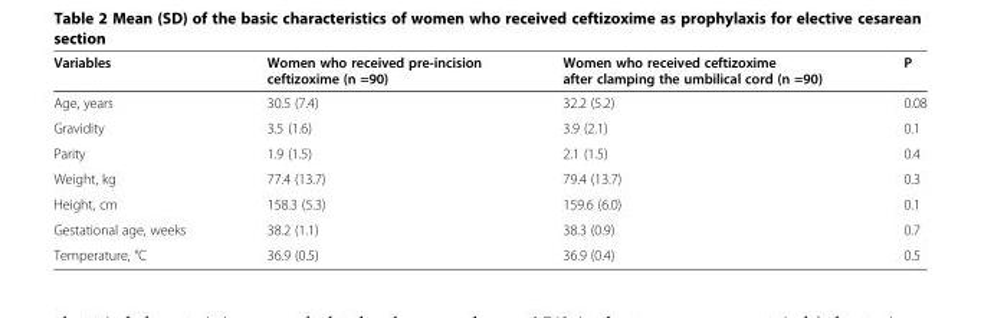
<table><thead><tr><td>Variables</td><td>Women who received pre-incision ceftizoxime (n =90)</td><td>Women who received ceftizoxime after clamping the umbilical cord (n =90)</td><td>P</td></tr></thead><tbody><tr><td>Age, years</td><td>30.5 (7.4)</td><td>32.2 (5.2)</td><td>0.08</td></tr><tr><td>Gravidity</td><td>3.5 (1.6)</td><td>3.9 (2.1)</td><td>0.1</td></tr><tr><td>Parity</td><td>1.9 (1.5)</td><td>2.1 (1.5)</td><td>0.4</td></tr><tr><td>Weight, kg</td><td>77.4 (13.7)</td><td>79.4 (13.7)</td><td>0.3</td></tr><tr><td>Height, cm</td><td>158.3 (5.3)</td><td>159.6 (6.0)</td><td>0.1</td></tr><tr><td>Gestational age, weeks</td><td>38.2 (1.1)</td><td>38.3 (0.9)</td><td>0.7</td></tr><tr><td>Temperature, °C</td><td>36.9 (0.5)</td><td>36.9 (0.4)</td><td>0.5</td></tr></tbody></table>